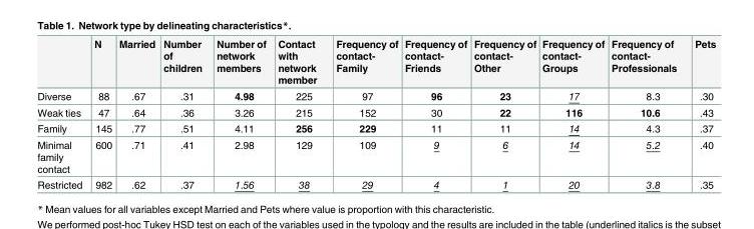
<table><thead><tr><td></td><td>N</td><td>Married</td><td>Number of children</td><td>Number of network members</td><td>Contact with network member</td><td>Frequency of contact- Family</td><td>Frequency of contact- Friends</td><td>Frequency of contact- Other</td><td>Frequency of contact- Groups</td><td>Frequency of contact- Professionals</td><td>Pets</td></tr></thead><tbody><tr><td>Diverse</td><td>88</td><td>.67</td><td>.31</td><td>4.98</td><td>225</td><td>97</td><td>96</td><td>23</td><td>17</td><td>8.3</td><td>.30</td></tr><tr><td>Weak ties</td><td>47</td><td>.64</td><td>.36</td><td>3.26</td><td>215</td><td>152</td><td>30</td><td>22</td><td>116</td><td>10.6</td><td>.43</td></tr><tr><td>Family</td><td>145</td><td>.77</td><td>.51</td><td>4.11</td><td>256</td><td>229</td><td>11</td><td>11</td><td>14</td><td>4.3</td><td>.37</td></tr><tr><td>Minimal family contact</td><td>600</td><td>.71</td><td>.41</td><td>2.98</td><td>129</td><td>109</td><td>9</td><td>6</td><td>14</td><td>5.2</td><td>.40</td></tr><tr><td>Restricted</td><td>982</td><td>.62</td><td>.37</td><td>1.56</td><td>38</td><td>29</td><td>4</td><td>1</td><td>20</td><td>3.8</td><td>.35</td></tr></tbody></table>